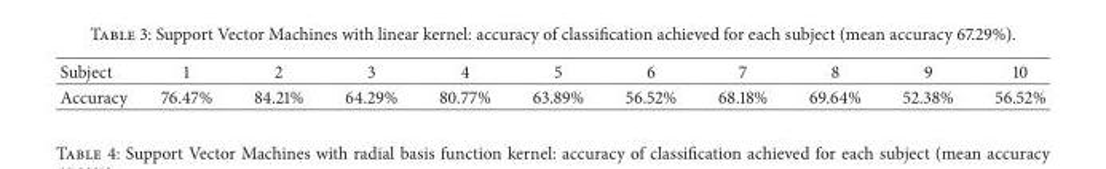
<table><thead><tr><td>Subject</td><td>1</td><td>2</td><td>3</td><td>4</td><td>5</td><td>6</td><td>7</td><td>8</td><td>9</td><td>10</td></tr></thead><tbody><tr><td>Accuracy</td><td>76.47%</td><td>84.21%</td><td>64.29%</td><td>80.77%</td><td>63.89%</td><td>56.52%</td><td>68.18%</td><td>69.64%</td><td>52.38%</td><td>56.52%</td></tr></tbody></table>